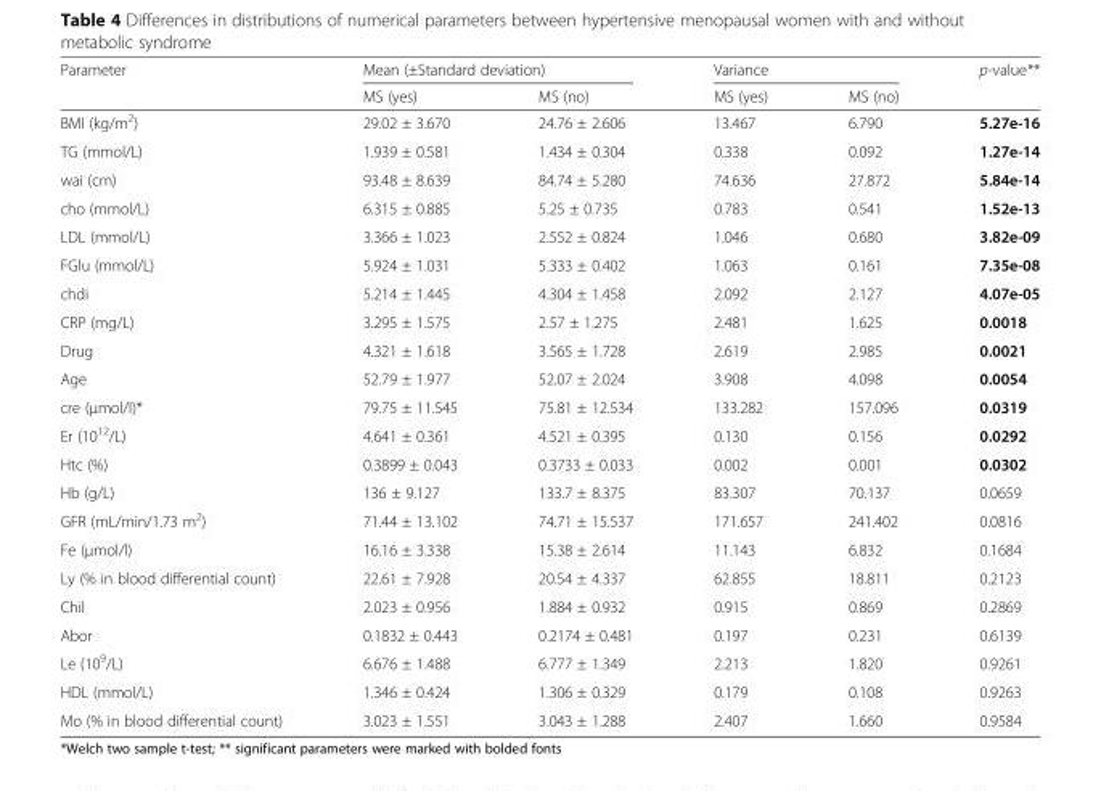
<table><thead><tr><td rowspan="2">Parameter</td><td colspan="2">Mean (±Standard deviation)</td><td colspan="2">Variance</td><td rowspan="2">p-value**</td></tr><tr><td>MS (yes)</td><td>MS (no)</td><td>MS (yes)</td><td>MS (no)</td></tr></thead><tbody><tr><td>BMI (kg/m<sup>2</sup>)</td><td>29.02 ± 3.670</td><td>24.76 ± 2.606</td><td>13.467</td><td>6.790</td><td>5.27e-16</td></tr><tr><td>TG (mmol/L)</td><td>1.939 ± 0.581</td><td>1.434 ± 0.304</td><td>0.338</td><td>0.092</td><td>1.27e-14</td></tr><tr><td>wai (cm)</td><td>93.48 ± 8.639</td><td>84.74 ± 5.280</td><td>74.636</td><td>27.872</td><td>5.84e-14</td></tr><tr><td>cho (mmol/L)</td><td>6.315 ± 0.885</td><td>5.25 ± 0.735</td><td>0.783</td><td>0.541</td><td>1.52e-13</td></tr><tr><td>LDL (mmol/L)</td><td>3.366 ± 1.023</td><td>2.552 ± 0.824</td><td>1.046</td><td>0.680</td><td>3.82e-09</td></tr><tr><td>FGlu (mmol/L)</td><td>5.924 ± 1.031</td><td>5.333 ± 0.402</td><td>1.063</td><td>0.161</td><td>7.35e-08</td></tr><tr><td>chdi</td><td>5.214 ± 1.445</td><td>4.304 ± 1.458</td><td>2.092</td><td>2.127</td><td>4.07e-05</td></tr><tr><td>CRP (mg/L)</td><td>3.295 ± 1.575</td><td>2.57 ± 1.275</td><td>2.481</td><td>1.625</td><td>0.0018</td></tr><tr><td>Drug</td><td>4.321 ± 1.618</td><td>3.565 ± 1.728</td><td>2.619</td><td>2.985</td><td>0.0021</td></tr><tr><td>Age</td><td>52.79 ± 1.977</td><td>52.07 ± 2.024</td><td>3.908</td><td>4.098</td><td>0.0054</td></tr><tr><td>cre (μmol/l)*</td><td>79.75 ± 11.545</td><td>75.81 ± 12.534</td><td>133.282</td><td>157.096</td><td>0.0319</td></tr><tr><td>Er (10<sup>12</sup>/L)</td><td>4.641 ± 0.361</td><td>4.521 ± 0.395</td><td>0.130</td><td>0.156</td><td>0.0292</td></tr><tr><td>Htc (%)</td><td>0.3899 ± 0.043</td><td>0.3733 ± 0.033</td><td>0.002</td><td>0.001</td><td>0.0302</td></tr><tr><td>Hb (g/L)</td><td>136 ± 9.127</td><td>133.7 ± 8.375</td><td>83.307</td><td>70.137</td><td>0.0659</td></tr><tr><td>GFR (mL/min/1.73 m<sup>2</sup>)</td><td>71.44 ± 13.102</td><td>74.71 ± 15.537</td><td>171.657</td><td>241.402</td><td>0.0816</td></tr><tr><td>Fe (μmol/l)</td><td>16.16 ± 3.338</td><td>15.38 ± 2.614</td><td>11.143</td><td>6.832</td><td>0.1684</td></tr><tr><td>Ly (% in blood differential count)</td><td>22.61 ± 7.928</td><td>20.54 ± 4.337</td><td>62.855</td><td>18.811</td><td>0.2123</td></tr><tr><td>Chil</td><td>2.023 ± 0.956</td><td>1.884 ± 0.932</td><td>0.915</td><td>0.869</td><td>0.2869</td></tr><tr><td>Abor</td><td>0.1832 ± 0.443</td><td>0.2174 ± 0.481</td><td>0.197</td><td>0.231</td><td>0.6139</td></tr><tr><td>Le (10<sup>9</sup>/L)</td><td>6.676 ± 1.488</td><td>6.777 ± 1.349</td><td>2.213</td><td>1.820</td><td>0.9261</td></tr><tr><td>HDL (mmol/L)</td><td>1.346 ± 0.424</td><td>1.306 ± 0.329</td><td>0.179</td><td>0.108</td><td>0.9263</td></tr><tr><td>Mo (% in blood differential count)</td><td>3.023 ± 1.551</td><td>3.043 ± 1.288</td><td>2.407</td><td>1.660</td><td>0.9584</td></tr></tbody></table>